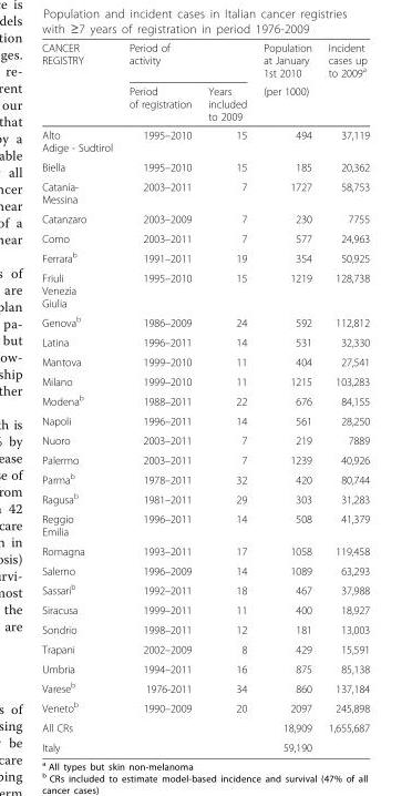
<table><thead><tr><td rowspan="2">CANCER REGISTRY</td><td colspan="2">Period of activity</td><td rowspan="2">Population at January 1st 2010 (per 1000)</td><td rowspan="2">Incident cases up to 2009<sup>a</sup></td></tr><tr><td>Period of registration</td><td>Years included to 2009</td></tr></thead><tbody><tr><td>Alto Adige - Sudtirol</td><td>1995–2010</td><td>15</td><td>494</td><td>37,119</td></tr><tr><td>Biella</td><td>1995–2010</td><td>15</td><td>185</td><td>20,362</td></tr><tr><td>Catania- Messina</td><td>2003–2011</td><td>7</td><td>1727</td><td>58,753</td></tr><tr><td>Catanzaro</td><td>2003–2009</td><td>7</td><td>230</td><td>7755</td></tr><tr><td>Como</td><td>2003–2011</td><td>7</td><td>577</td><td>24,963</td></tr><tr><td>Ferrara<sup>b</sup></td><td>1991–2011</td><td>19</td><td>354</td><td>50,925</td></tr><tr><td>Friuli Venezia Giulia</td><td>1995–2010</td><td>15</td><td>1219</td><td>128,738</td></tr><tr><td>Genova<sup>b</sup></td><td>1986–2009</td><td>24</td><td>592</td><td>112,812</td></tr><tr><td>Latina</td><td>1996–2011</td><td>14</td><td>531</td><td>32,330</td></tr><tr><td>Mantova</td><td>1999–2010</td><td>11</td><td>404</td><td>27,541</td></tr><tr><td>Milano</td><td>1999–2010</td><td>11</td><td>1215</td><td>103,283</td></tr><tr><td>Modena<sup>b</sup></td><td>1988–2011</td><td>22</td><td>676</td><td>84,155</td></tr><tr><td>Napoli</td><td>1996–2011</td><td>14</td><td>561</td><td>28,250</td></tr><tr><td>Nuoro</td><td>2003–2011</td><td>7</td><td>219</td><td>7889</td></tr><tr><td>Palermo</td><td>2003–2011</td><td>7</td><td>1239</td><td>40,926</td></tr><tr><td>Parma<sup>b</sup></td><td>1978–2011</td><td>32</td><td>420</td><td>80,744</td></tr><tr><td>Ragusa<sup>b</sup></td><td>1981–2011</td><td>29</td><td>303</td><td>31,283</td></tr><tr><td>Reggio Emilia</td><td>1996–2011</td><td>14</td><td>508</td><td>41,379</td></tr><tr><td>Romagna</td><td>1993–2011</td><td>17</td><td>1058</td><td>119,458</td></tr><tr><td>Salerno</td><td>1996–2009</td><td>14</td><td>1089</td><td>63,293</td></tr><tr><td>Sassari<sup>b</sup></td><td>1992–2011</td><td>18</td><td>467</td><td>37,988</td></tr><tr><td>Siracusa</td><td>1999–2011</td><td>11</td><td>400</td><td>18,927</td></tr><tr><td>Sondrio</td><td>1998–2011</td><td>12</td><td>181</td><td>13,003</td></tr><tr><td>Trapani</td><td>2002–2009</td><td>8</td><td>429</td><td>15,591</td></tr><tr><td>Umbria</td><td>1994–2011</td><td>16</td><td>875</td><td>85,138</td></tr><tr><td>Varese<sup>b</sup></td><td>1976-2011</td><td>34</td><td>860</td><td>137,184</td></tr><tr><td>Veneto<sup>b</sup></td><td>1990–2009</td><td>20</td><td>2097</td><td>245,898</td></tr><tr><td>All CRs</td><td></td><td></td><td>18,909</td><td>1,655,687</td></tr><tr><td>Italy</td><td></td><td></td><td>59,190</td><td></td></tr></tbody></table>